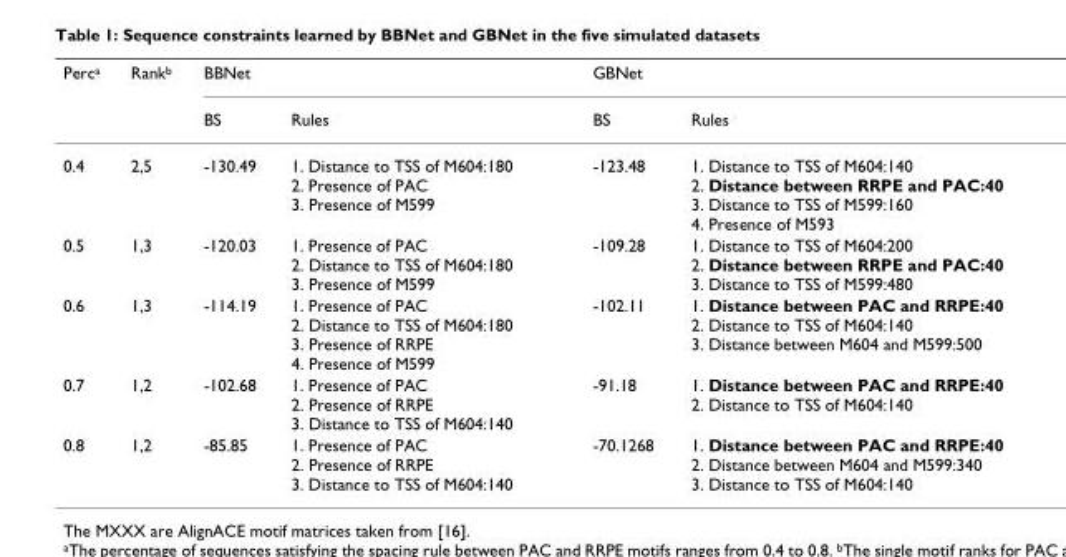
<table><thead><tr><td rowspan="2">Perc<sup>a</sup></td><td rowspan="2">Rank<sup>b</sup></td><td colspan="2">BBNet</td><td colspan="2">GBNet</td></tr><tr><td>BS</td><td>Rules</td><td>BS</td><td>Rules</td></tr></thead><tbody><tr><td>0.4</td><td>2,5</td><td>-130.49</td><td>1. Distance to TSS of M604:180 2. Presence of PAC 3. Presence of M599</td><td>-123.48</td><td>1. Distance to TSS of M604:140 2. Distance between RRPE and PAC:40 3. Distance to TSS of M599:160 4. Presence of M593</td></tr><tr><td>0.5</td><td>1,3</td><td>-120.03</td><td>1. Presence of PAC 2. Distance to TSS of M604:180 3. Presence of M599</td><td>-109.28</td><td>1. Distance to TSS of M604:200 2. Distance between RRPE and PAC:40 3. Distance to TSS of M599:480</td></tr><tr><td>0.6</td><td>1,3</td><td>-114.19</td><td>1. Presence of PAC 2. Distance to TSS of M604:180 3. Presence of RRPE 4. Presence of M599</td><td>-102.11</td><td>1. Distance between PAC and RRPE:40 2. Distance to TSS of M604:140 3. Distance between M604 and M599:500</td></tr><tr><td>0.7</td><td>1,2</td><td>-102.68</td><td>1. Presence of PAC 2. Presence of RRPE 3. Distance to TSS of M604:140</td><td>-91.18</td><td>1. Distance between PAC and RRPE:40 2. Distance to TSS of M604:140</td></tr><tr><td>0.8</td><td>1,2</td><td>-85.85</td><td>1. Presence of PAC 2. Presence of RRPE 3. Distance to TSS of M604:140</td><td>-70.1268</td><td>1. Distance between PAC and RRPE:40 2. Distance between M604 and M599:340 3. Distance to TSS of M604:140</td></tr></tbody></table>